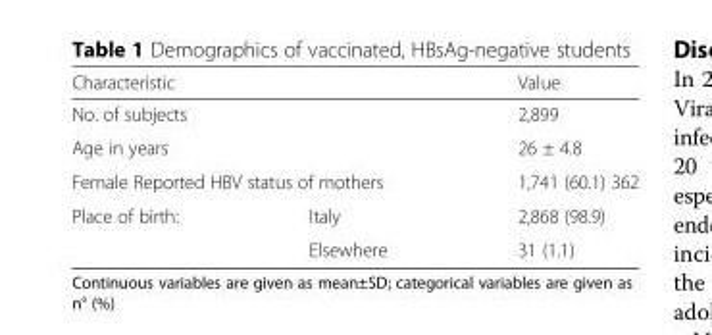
<table><thead><tr><td colspan="2">Characteristic</td><td>Value</td></tr></thead><tbody><tr><td colspan="2">No. of subjects</td><td>2,899</td></tr><tr><td colspan="2">Age in years</td><td>26 ± 4.8</td></tr><tr><td colspan="2">Female Reported HBV status of mothers</td><td>1,741 (60.1) 362</td></tr><tr><td rowspan="2">Place of birth:</td><td>Italy</td><td>2,868 (98.9)</td></tr><tr><td>Elsewhere</td><td>31 (1.1)</td></tr></tbody></table>